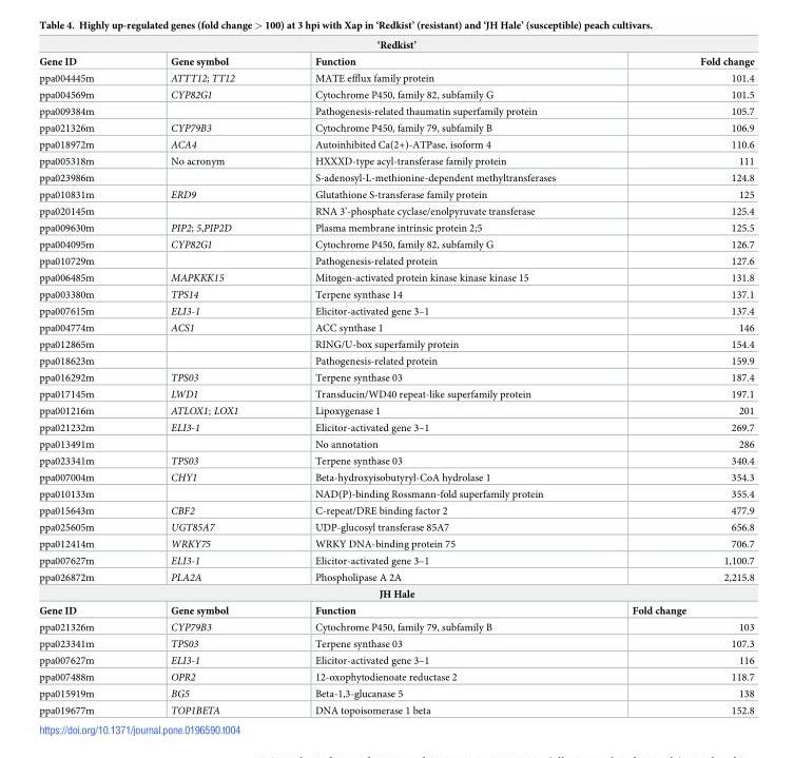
<table><tbody><tr><td colspan="4">‘Redkist’</td></tr><tr><td>Gene ID</td><td>Gene symbol</td><td>Function</td><td>Fold change</td></tr><tr><td>ppa004445m</td><td>ATTT12; TT12</td><td>MATE efflux family protein</td><td>101.4</td></tr><tr><td>ppa004569m</td><td>CYP82G1</td><td>Cytochrome P450, family 82, subfamily G</td><td>101.5</td></tr><tr><td>ppa009384m</td><td></td><td>Pathogenesis-related thaumatin superfamily protein</td><td>105.7</td></tr><tr><td>ppa021326m</td><td>CYP79B3</td><td>Cytochrome P450, family 79, subfamily B</td><td>106.9</td></tr><tr><td>ppa018972m</td><td>ACA4</td><td>Autoinhibited Ca(2+)-ATPase, isoform 4</td><td>110.6</td></tr><tr><td>ppa005318m</td><td>No acronym</td><td>HXXXD-type acyl-transferase family protein</td><td>111</td></tr><tr><td>ppa023986m</td><td></td><td>S-adenosyl-L-methionine-dependent methyltransferases</td><td>124.8</td></tr><tr><td>ppa010831m</td><td>ERD9</td><td>Glutathione S-transferase family protein</td><td>125</td></tr><tr><td>ppa020145m</td><td></td><td>RNA 3’-phosphate cyclase/enolpyruvate transferase</td><td>125.4</td></tr><tr><td>ppa009630m</td><td>PIP2; 5,PIP2D</td><td>Plasma membrane intrinsic protein 2;5</td><td>125.5</td></tr><tr><td>ppa004095m</td><td>CYP82G1</td><td>Cytochrome P450, family 82, subfamily G</td><td>126.7</td></tr><tr><td>ppa010729m</td><td></td><td>Pathogenesis-related protein</td><td>127.6</td></tr><tr><td>ppa006485m</td><td>MAPKKK15</td><td>Mitogen-activated protein kinase kinase kinase 15</td><td>131.8</td></tr><tr><td>ppa003380m</td><td>TPS14</td><td>Terpene synthase 14</td><td>137.1</td></tr><tr><td>ppa007615m</td><td>ELI3-1</td><td>Elicitor-activated gene 3–1</td><td>137.4</td></tr><tr><td>ppa004774m</td><td>ACS1</td><td>ACC synthase 1</td><td>146</td></tr><tr><td>ppa012865m</td><td></td><td>RING/U-box superfamily protein</td><td>154.4</td></tr><tr><td>ppa018623m</td><td></td><td>Pathogenesis-related protein</td><td>159.9</td></tr><tr><td>ppa016292m</td><td>TPS03</td><td>Terpene synthase 03</td><td>187.4</td></tr><tr><td>ppa017145m</td><td>LWD1</td><td>Transducin/WD40 repeat-like superfamily protein</td><td>197.1</td></tr><tr><td>ppa001216m</td><td>ATLOX1; LOX1</td><td>Lipoxygenase 1</td><td>201</td></tr><tr><td>ppa021232m</td><td>ELI3-1</td><td>Elicitor-activated gene 3–1</td><td>269.7</td></tr><tr><td>ppa013491m</td><td></td><td>No annotation</td><td>286</td></tr><tr><td>ppa023341m</td><td>TPS03</td><td>Terpene synthase 03</td><td>340.4</td></tr><tr><td>ppa007004m</td><td>CHY1</td><td>Beta-hydroxyisobutyryl-CoA hydrolase 1</td><td>354.3</td></tr><tr><td>ppa010133m</td><td></td><td>NAD(P)-binding Rossmann-fold superfamily protein</td><td>355.4</td></tr><tr><td>ppa015643m</td><td>CBF2</td><td>C-repeat/DRE binding factor 2</td><td>477.9</td></tr><tr><td>ppa025605m</td><td>UGT85A7</td><td>UDP-glucosyl transferase 85A7</td><td>656.8</td></tr><tr><td>ppa012414m</td><td>WRKY75</td><td>WRKY DNA-binding protein 75</td><td>706.7</td></tr><tr><td>ppa007627m</td><td>ELI3-1</td><td>Elicitor-activated gene 3–1</td><td>1,100.7</td></tr><tr><td>ppa026872m</td><td>PLA2A</td><td>Phospholipase A 2A</td><td>2,215.8</td></tr><tr><td colspan="4">JH Hale</td></tr><tr><td>Gene ID</td><td>Gene symbol</td><td>Function</td><td>Fold change</td></tr><tr><td>ppa021326m</td><td>CYP79B3</td><td>Cytochrome P450, family 79, subfamily B</td><td>103</td></tr><tr><td>ppa023341m</td><td>TPS03</td><td>Terpene synthase 03</td><td>107.3</td></tr><tr><td>ppa007627m</td><td>ELI3-1</td><td>Elicitor-activated gene 3–1</td><td>116</td></tr><tr><td>ppa007488m</td><td>OPR2</td><td>12-oxophytodienoate reductase 2</td><td>118.7</td></tr><tr><td>ppa015919m</td><td>BG5</td><td>Beta-1,3-glucanase 5</td><td>138</td></tr><tr><td>ppa019677m</td><td>TOP1BETA</td><td>DNA topoisomerase 1 beta</td><td>152.8</td></tr></tbody></table>